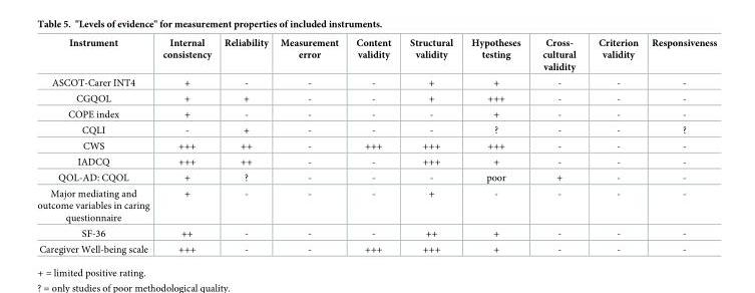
<table><thead><tr><td>Instrument</td><td>Internal consistency</td><td>Reliability</td><td>Measurement error</td><td>Content validity</td><td>Structural validity</td><td>Hypotheses testing</td><td>Cross- cultural validity</td><td>Criterion validity</td><td>Responsiveness</td></tr></thead><tbody><tr><td>ASCOT-Carer INT4</td><td>+</td><td>-</td><td>-</td><td>-</td><td>+</td><td>+</td><td>-</td><td>-</td><td>-</td></tr><tr><td>CGQOL</td><td>+</td><td>+</td><td>-</td><td>-</td><td>+</td><td>+++</td><td>-</td><td>-</td><td>-</td></tr><tr><td>COPE index</td><td>+</td><td>-</td><td>-</td><td>-</td><td>-</td><td>+</td><td>-</td><td>-</td><td>-</td></tr><tr><td>CQLI</td><td>-</td><td>+</td><td>-</td><td>-</td><td>-</td><td>?</td><td>-</td><td>-</td><td>?</td></tr><tr><td>CWS</td><td>+++</td><td>++</td><td>-</td><td>+++</td><td>+++</td><td>+++</td><td>-</td><td>-</td><td>-</td></tr><tr><td>IADCQ</td><td>+++</td><td>++</td><td>-</td><td>-</td><td>+++</td><td>+</td><td>-</td><td>-</td><td>-</td></tr><tr><td>QOL-AD: CQOL</td><td>+</td><td>?</td><td>-</td><td>-</td><td>-</td><td>poor</td><td>+</td><td>-</td><td>-</td></tr><tr><td>Major mediating and outcome variables in caring questionnaire</td><td>+</td><td>-</td><td>-</td><td>-</td><td>+</td><td>-</td><td>-</td><td>-</td><td>-</td></tr><tr><td>SF-36</td><td>++</td><td>-</td><td>-</td><td>-</td><td>++</td><td>+</td><td>-</td><td>-</td><td>-</td></tr><tr><td>Caregiver Well-being scale</td><td>+++</td><td>-</td><td>-</td><td>+++</td><td>+++</td><td>+</td><td>-</td><td>-</td><td>-</td></tr></tbody></table>